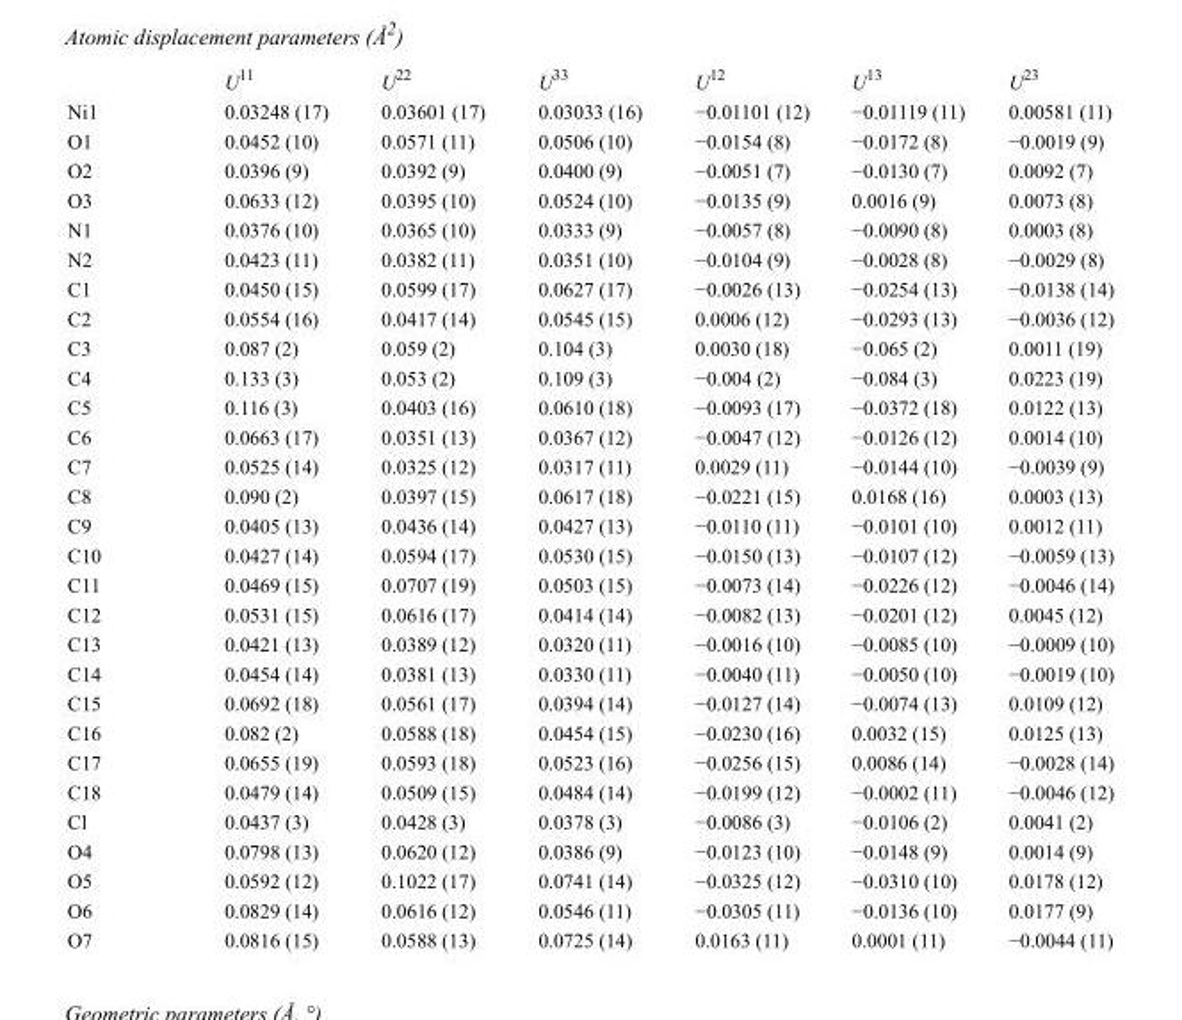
<table><thead><tr><td></td><td>U<sup>11</sup></td><td>U<sup>22</sup></td><td>U<sup>33</sup></td><td>U<sup>12</sup></td><td>U<sup>13</sup></td><td>U<sup>23</sup></td></tr></thead><tbody><tr><td>Ni1</td><td>0.03248 (17)</td><td>0.03601 (17)</td><td>0.03033 (16)</td><td>−0.01101 (12)</td><td>−0.01119 (11)</td><td>0.00581 (11)</td></tr><tr><td>O1</td><td>0.0452 (10)</td><td>0.0571 (11)</td><td>0.0506 (10)</td><td>−0.0154 (8)</td><td>−0.0172 (8)</td><td>−0.0019 (9)</td></tr><tr><td>O2</td><td>0.0396 (9)</td><td>0.0392 (9)</td><td>0.0400 (9)</td><td>−0.0051 (7)</td><td>−0.0130 (7)</td><td>0.0092 (7)</td></tr><tr><td>O3</td><td>0.0633 (12)</td><td>0.0395 (10)</td><td>0.0524 (10)</td><td>−0.0135 (9)</td><td>0.0016 (9)</td><td>0.0073 (8)</td></tr><tr><td>N1</td><td>0.0376 (10)</td><td>0.0365 (10)</td><td>0.0333 (9)</td><td>−0.0057 (8)</td><td>−0.0090 (8)</td><td>0.0003 (8)</td></tr><tr><td>N2</td><td>0.0423 (11)</td><td>0.0382 (11)</td><td>0.0351 (10)</td><td>−0.0104 (9)</td><td>−0.0028 (8)</td><td>−0.0029 (8)</td></tr><tr><td>C1</td><td>0.0450 (15)</td><td>0.0599 (17)</td><td>0.0627 (17)</td><td>−0.0026 (13)</td><td>−0.0254 (13)</td><td>−0.0138 (14)</td></tr><tr><td>C2</td><td>0.0554 (16)</td><td>0.0417 (14)</td><td>0.0545 (15)</td><td>0.0006 (12)</td><td>−0.0293 (13)</td><td>−0.0036 (12)</td></tr><tr><td>C3</td><td>0.087 (2)</td><td>0.059 (2)</td><td>0.104 (3)</td><td>0.0030 (18)</td><td>−0.065 (2)</td><td>0.0011 (19)</td></tr><tr><td>C4</td><td>0.133 (3)</td><td>0.053 (2)</td><td>0.109 (3)</td><td>−0.004 (2)</td><td>−0.084 (3)</td><td>0.0223 (19)</td></tr><tr><td>C5</td><td>0.116 (3)</td><td>0.0403 (16)</td><td>0.0610 (18)</td><td>−0.0093 (17)</td><td>−0.0372 (18)</td><td>0.0122 (13)</td></tr><tr><td>C6</td><td>0.0663 (17)</td><td>0.0351 (13)</td><td>0.0367 (12)</td><td>−0.0047 (12)</td><td>−0.0126 (12)</td><td>0.0014 (10)</td></tr><tr><td>C7</td><td>0.0525 (14)</td><td>0.0325 (12)</td><td>0.0317 (11)</td><td>0.0029 (11)</td><td>−0.0144 (10)</td><td>−0.0039 (9)</td></tr><tr><td>C8</td><td>0.090 (2)</td><td>0.0397 (15)</td><td>0.0617 (18)</td><td>−0.0221 (15)</td><td>0.0168 (16)</td><td>0.0003 (13)</td></tr><tr><td>C9</td><td>0.0405 (13)</td><td>0.0436 (14)</td><td>0.0427 (13)</td><td>−0.0110 (11)</td><td>−0.0101 (10)</td><td>0.0012 (11)</td></tr><tr><td>C10</td><td>0.0427 (14)</td><td>0.0594 (17)</td><td>0.0530 (15)</td><td>−0.0150 (13)</td><td>−0.0107 (12)</td><td>−0.0059 (13)</td></tr><tr><td>C11</td><td>0.0469 (15)</td><td>0.0707 (19)</td><td>0.0503 (15)</td><td>−0.0073 (14)</td><td>−0.0226 (12)</td><td>−0.0046 (14)</td></tr><tr><td>C12</td><td>0.0531 (15)</td><td>0.0616 (17)</td><td>0.0414 (14)</td><td>−0.0082 (13)</td><td>−0.0201 (12)</td><td>0.0045 (12)</td></tr><tr><td>C13</td><td>0.0421 (13)</td><td>0.0389 (12)</td><td>0.0320 (11)</td><td>−0.0016 (10)</td><td>−0.0085 (10)</td><td>−0.0009 (10)</td></tr><tr><td>C14</td><td>0.0454 (14)</td><td>0.0381 (13)</td><td>0.0330 (11)</td><td>−0.0040 (11)</td><td>−0.0050 (10)</td><td>−0.0019 (10)</td></tr><tr><td>C15</td><td>0.0692 (18)</td><td>0.0561 (17)</td><td>0.0394 (14)</td><td>−0.0127 (14)</td><td>−0.0074 (13)</td><td>0.0109 (12)</td></tr><tr><td>C16</td><td>0.082 (2)</td><td>0.0588 (18)</td><td>0.0454 (15)</td><td>−0.0230 (16)</td><td>0.0032 (15)</td><td>0.0125 (13)</td></tr><tr><td>C17</td><td>0.0655 (19)</td><td>0.0593 (18)</td><td>0.0523 (16)</td><td>−0.0256 (15)</td><td>0.0086 (14)</td><td>−0.0028 (14)</td></tr><tr><td>C18</td><td>0.0479 (14)</td><td>0.0509 (15)</td><td>0.0484 (14)</td><td>−0.0199 (12)</td><td>−0.0002 (11)</td><td>−0.0046 (12)</td></tr><tr><td>Cl</td><td>0.0437 (3)</td><td>0.0428 (3)</td><td>0.0378 (3)</td><td>−0.0086 (3)</td><td>−0.0106 (2)</td><td>0.0041 (2)</td></tr><tr><td>O4</td><td>0.0798 (13)</td><td>0.0620 (12)</td><td>0.0386 (9)</td><td>−0.0123 (10)</td><td>−0.0148 (9)</td><td>0.0014 (9)</td></tr><tr><td>O5</td><td>0.0592 (12)</td><td>0.1022 (17)</td><td>0.0741 (14)</td><td>−0.0325 (12)</td><td>−0.0310 (10)</td><td>0.0178 (12)</td></tr><tr><td>O6</td><td>0.0829 (14)</td><td>0.0616 (12)</td><td>0.0546 (11)</td><td>−0.0305 (11)</td><td>−0.0136 (10)</td><td>0.0177 (9)</td></tr><tr><td>O7</td><td>0.0816 (15)</td><td>0.0588 (13)</td><td>0.0725 (14)</td><td>0.0163 (11)</td><td>0.0001 (11)</td><td>−0.0044 (11)</td></tr></tbody></table>